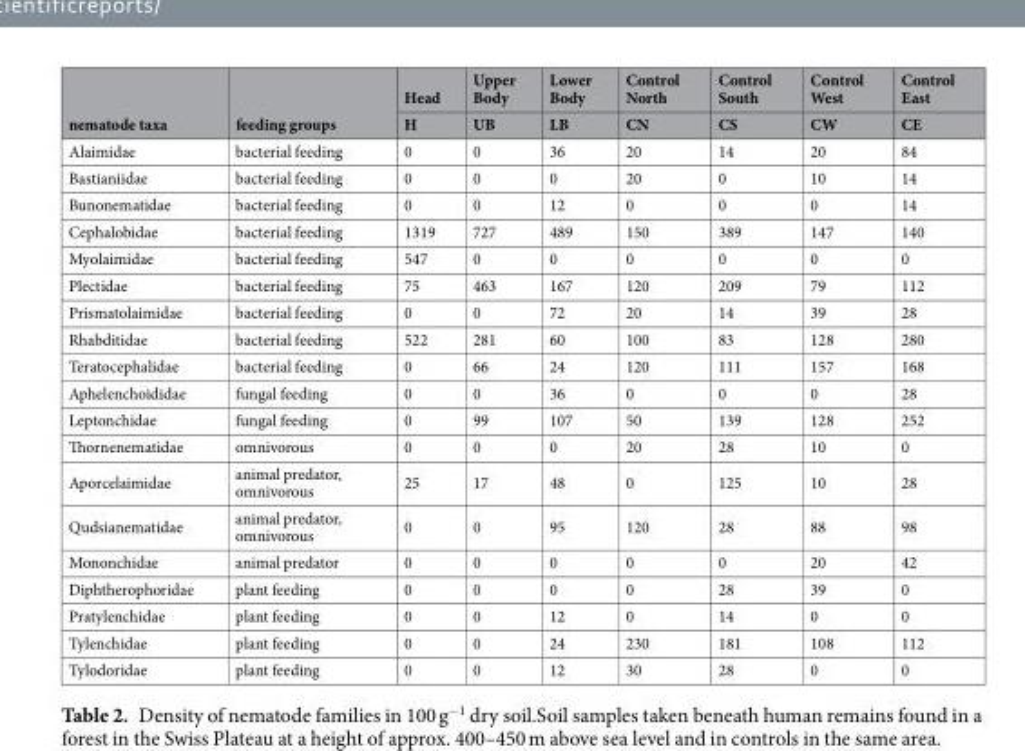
<table><thead><tr><td rowspan="2">nematode taxa</td><td rowspan="2">feeding groups</td><td rowspan="2">Head H</td><td rowspan="2">Upper Body UB</td><td rowspan="2">Lower Body LB</td><td rowspan="2">Control North CN</td><td rowspan="2">Control South CS</td><td rowspan="2">Control West CW</td><td rowspan="2">Control East CE</td></tr><tr></tr></thead><tbody><tr><td>Alaimidae</td><td>bacterial feeding</td><td>0</td><td>0</td><td>36</td><td>20</td><td>14</td><td>20</td><td>84</td></tr><tr><td>Bastianiidae</td><td>bacterial feeding</td><td>0</td><td>0</td><td>0</td><td>20</td><td>0</td><td>10</td><td>14</td></tr><tr><td>Bunonematidae</td><td>bacterial feeding</td><td>0</td><td>0</td><td>12</td><td>0</td><td>0</td><td>0</td><td>14</td></tr><tr><td>Cephalobidae</td><td>bacterial feeding</td><td>1319</td><td>727</td><td>489</td><td>150</td><td>389</td><td>147</td><td>140</td></tr><tr><td>Myolaimidae</td><td>bacterial feeding</td><td>547</td><td>0</td><td>0</td><td>0</td><td>0</td><td>0</td><td>0</td></tr><tr><td>Plectidae</td><td>bacterial feeding</td><td>75</td><td>463</td><td>167</td><td>120</td><td>209</td><td>79</td><td>112</td></tr><tr><td>Prismatolaimidae</td><td>bacterial feeding</td><td>0</td><td>0</td><td>72</td><td>20</td><td>14</td><td>39</td><td>28</td></tr><tr><td>Rhabditidae</td><td>bacterial feeding</td><td>522</td><td>281</td><td>60</td><td>100</td><td>83</td><td>128</td><td>280</td></tr><tr><td>Teratocephalidae</td><td>bacterial feeding</td><td>0</td><td>66</td><td>24</td><td>120</td><td>111</td><td>157</td><td>168</td></tr><tr><td>Aphelenchoididae</td><td>fungal feeding</td><td>0</td><td>0</td><td>36</td><td>0</td><td>0</td><td>0</td><td>28</td></tr><tr><td>Leptonchidae</td><td>fungal feeding</td><td>0</td><td>99</td><td>107</td><td>50</td><td>139</td><td>128</td><td>252</td></tr><tr><td>Thornenematidae</td><td>omnivorous</td><td>0</td><td>0</td><td>0</td><td>20</td><td>28</td><td>10</td><td>0</td></tr><tr><td>Aporcelaimidae</td><td>animal predator, omnivorous</td><td>25</td><td>17</td><td>48</td><td>0</td><td>125</td><td>10</td><td>28</td></tr><tr><td>Qudsianematidae</td><td>animal predator, omnivorous</td><td>0</td><td>0</td><td>95</td><td>120</td><td>28</td><td>88</td><td>98</td></tr><tr><td>Mononchidae</td><td>animal predator</td><td>0</td><td>0</td><td>0</td><td>0</td><td>0</td><td>20</td><td>42</td></tr><tr><td>Diphtherophoridae</td><td>plant feeding</td><td>0</td><td>0</td><td>0</td><td>0</td><td>28</td><td>39</td><td>0</td></tr><tr><td>Pratylenchidae</td><td>plant feeding</td><td>0</td><td>0</td><td>12</td><td>0</td><td>14</td><td>0</td><td>0</td></tr><tr><td>Tylenchidae</td><td>plant feeding</td><td>0</td><td>0</td><td>24</td><td>230</td><td>181</td><td>108</td><td>112</td></tr><tr><td>Tylodoridae</td><td>plant feeding</td><td>0</td><td>0</td><td>12</td><td>30</td><td>28</td><td>0</td><td>0</td></tr></tbody></table>